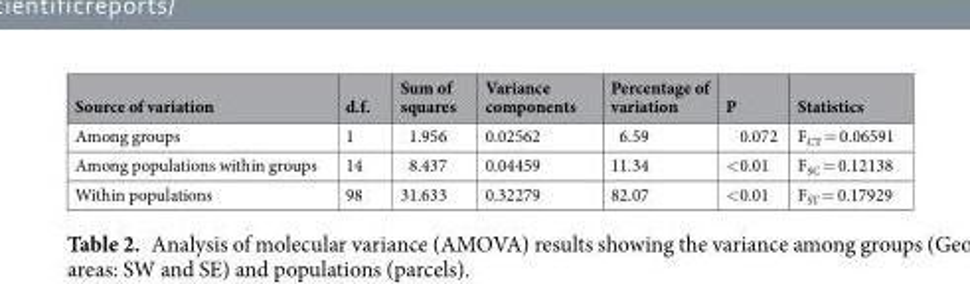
<table><thead><tr><td>Source of variation</td><td>d.f.</td><td>Sum of squares</td><td>Variance components</td><td>Percentage of variation</td><td>P</td><td>Statistics</td></tr></thead><tbody><tr><td>Among groups</td><td>1</td><td>1.956</td><td>0.02562</td><td>6.59</td><td>0.072</td><td>F<sub>CT</sub> = 0.06591</td></tr><tr><td>Among populations within groups</td><td>14</td><td>8.437</td><td>0.04459</td><td>11.34</td><td>&lt;0.01</td><td>F<sub>SC</sub> = 0.12138</td></tr><tr><td>Within populations</td><td>98</td><td>31.633</td><td>0.32279</td><td>82.07</td><td>&lt;0.01</td><td>F<sub>ST</sub> = 0.17929</td></tr></tbody></table>